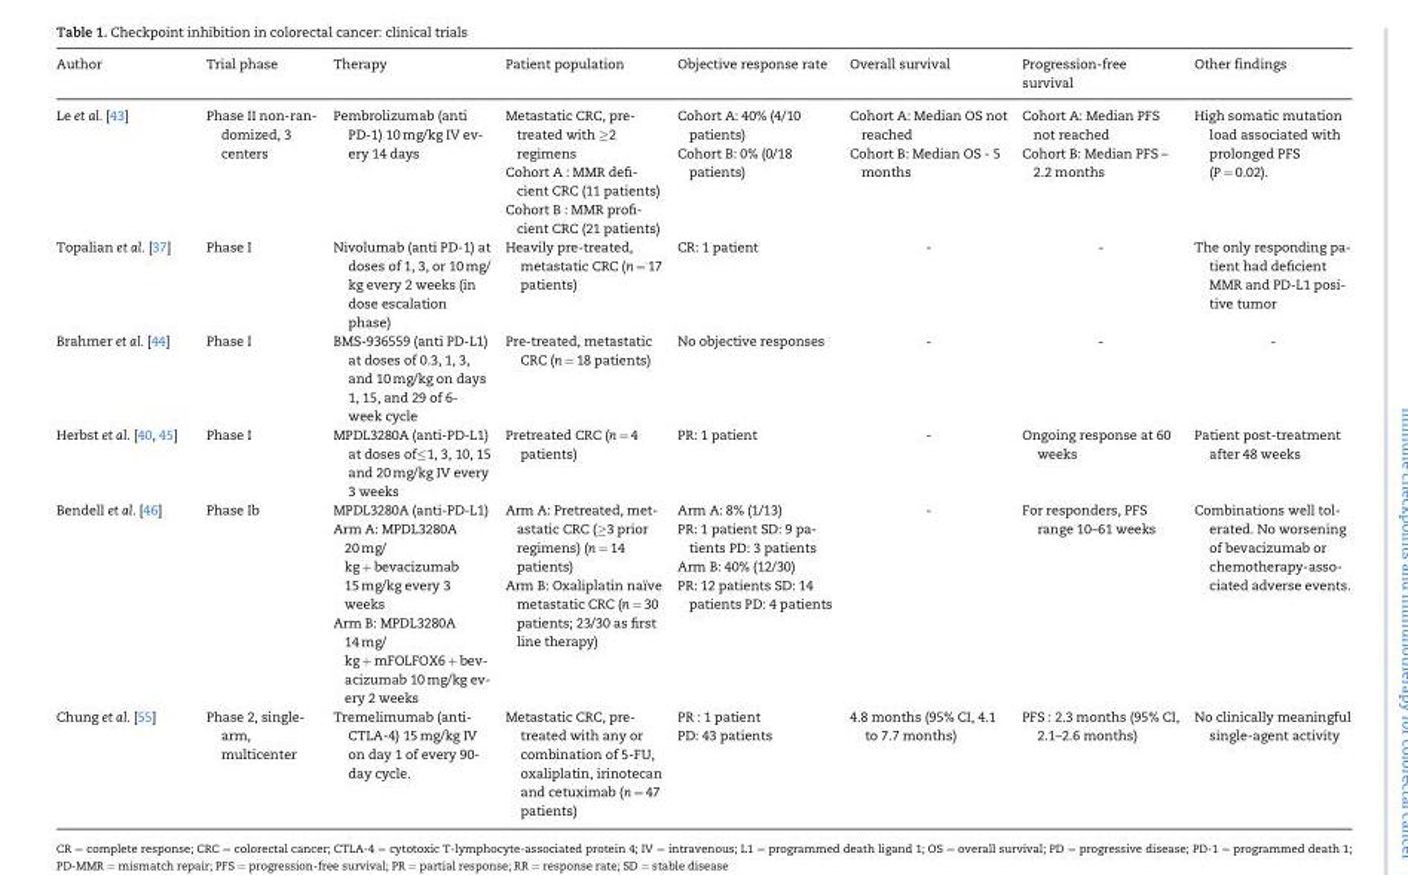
<table><thead><tr><td>Author</td><td>Trial phase</td><td>Therapy</td><td>Patient population</td><td>Objective response rate</td><td>Overall survival</td><td>Progression-free survival</td><td>Other findings</td></tr></thead><tbody><tr><td>Le et al. [43]</td><td>Phase II non-ran- domized, 3 centers</td><td>Pembrolizumab (anti PD-1) 10 mg/kg IV ev- ery 14 days</td><td>Metastatic CRC, pre- treated with �2 regimens Cohort A : MMR defi- cient CRC (11 patients) Cohort B : MMR profi- cient CRC (21 patients)</td><td>Cohort A: 40% (4/10 patients) Cohort B: 0% (0/18 patients)</td><td>Cohort A: Median OS not reached Cohort B: Median OS - 5 months</td><td>Cohort A: Median PFS not reached Cohort B: Median PFS – 2.2 months</td><td>High somatic mutation load associated with prolonged PFS (P = 0.02).</td></tr><tr><td>Topalian et al. [37]</td><td>Phase I</td><td>Nivolumab (anti PD-1) at doses of 1, 3, or 10 mg/ kg every 2 weeks (in dose escalation phase)</td><td>Heavily pre-treated, metastatic CRC (n = 17 patients)</td><td>CR: 1 patient</td><td>-</td><td>-</td><td>The only responding pa- tient had deficient MMR and PD-L1 posi- tive tumor</td></tr><tr><td>Brahmer et al. [44]</td><td>Phase I</td><td>BMS-936559 (anti PD-L1) at doses of 0.3, 1, 3, and 10 mg/kg on days 1, 15, and 29 of 6- week cycle</td><td>Pre-treated, metastatic CRC (n = 18 patients)</td><td>No objective responses</td><td>-</td><td>-</td><td>-</td></tr><tr><td>Herbst et al. [40, 45]</td><td>Phase I</td><td>MPDL3280A (anti-PD-L1) at doses of≤1, 3, 10, 15 and 20 mg/kg IV every 3 weeks</td><td>Pretreated CRC (n = 4 patients)</td><td>PR: 1 patient</td><td>-</td><td>Ongoing response at 60 weeks</td><td>Patient post-treatment after 48 weeks</td></tr><tr><td>Bendell et al. [46]</td><td>Phase Ib</td><td>MPDL3280A (anti-PD-L1) Arm A: MPDL3280A 20 mg/ kg þ bevacizumab 15 mg/kg every 3 weeks Arm B: MPDL3280A 14 mg/ kg þ mFOLFOX6 þ bev- acizumab 10 mg/kg ev- ery 2 weeks</td><td>Arm A: Pretreated, met- astatic CRC (�3 prior regimens) (n ¼ 14 patients) Arm B: Oxaliplatin naı¨ve metastatic CRC (n ¼ 30 patients; 23/30 as first line therapy)</td><td>Arm A: 8% (1/13) PR: 1 patient SD: 9 pa- tients PD: 3 patients Arm B: 40% (12/30) PR: 12 patients SD: 14 patients PD: 4 patients</td><td>-</td><td>For responders, PFS range 10–61 weeks</td><td>Combinations well tol- erated. No worsening of bevacizumab or chemotherapy-asso- ciated adverse events.</td></tr><tr><td>Chung et al. [55]</td><td>Phase 2, single- arm, multicenter</td><td>Tremelimumab (anti- CTLA-4) 15 mg/kg IV on day 1 of every 90- day cycle.</td><td>Metastatic CRC, pre- treated with any or combination of 5-FU, oxaliplatin, irinotecan and cetuximab (n ¼ 47 patients)</td><td>PR : 1 patient PD: 43 patients</td><td>4.8 months (95% CI, 4.1 to 7.7 months)</td><td>PFS : 2.3 months (95% CI, 2.1–2.6 months)</td><td>No clinically meaningful single-agent activity</td></tr></tbody></table>